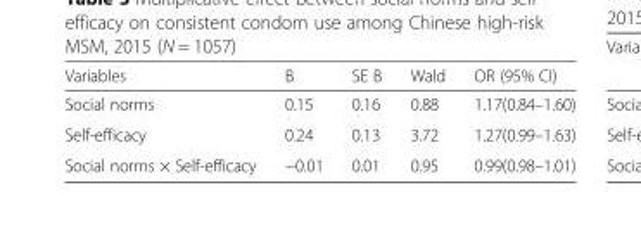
<table><thead><tr><td>Variables</td><td>B</td><td>SE B</td><td>Wald</td><td>OR (95% CI)</td></tr></thead><tbody><tr><td>Social norms</td><td>0.15</td><td>0.16</td><td>0.88</td><td>1.17(0.84–1.60)</td></tr><tr><td>Self-efficacy</td><td>0.24</td><td>0.13</td><td>3.72</td><td>1.27(0.99–1.63)</td></tr><tr><td>Social norms × Self-efficacy</td><td>−0.01</td><td>0.01</td><td>0.95</td><td>0.99(0.98–1.01)</td></tr></tbody></table>